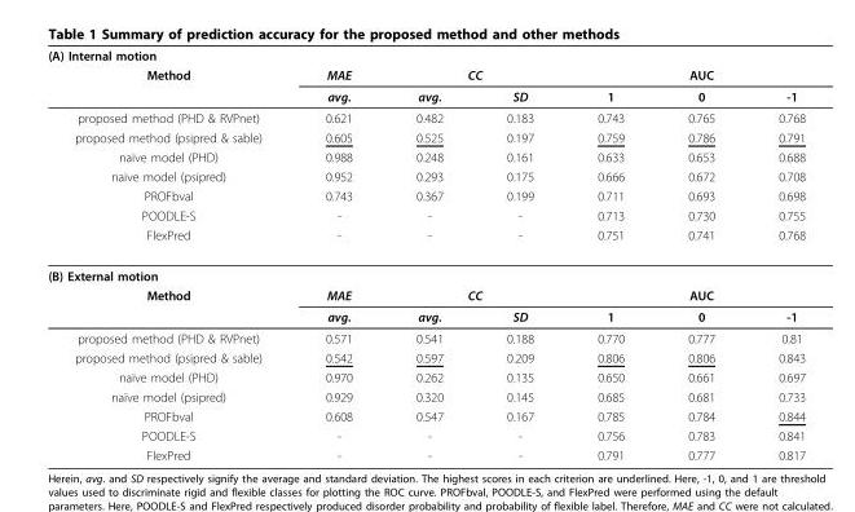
<table><thead><tr><td colspan="7">(A) Internal motion</td></tr><tr><td rowspan="2">Method</td><td rowspan="2">MAE avg.</td><td colspan="2">CC</td><td colspan="3">AUC</td></tr><tr><td>avg.</td><td>SD</td><td>1</td><td>0</td><td>-1</td></tr></thead><tbody><tr><td>proposed method (PHD &amp; RVPnet)</td><td>0.621</td><td>0.482</td><td>0.183</td><td>0.743</td><td>0.765</td><td>0.768</td></tr><tr><td>proposed method (psipred &amp; sable)</td><td>0.605</td><td>0.525</td><td>0.197</td><td>0.759</td><td>0.786</td><td>0.791</td></tr><tr><td>naïve model (PHD)</td><td>0.988</td><td>0.248</td><td>0.161</td><td>0.633</td><td>0.653</td><td>0.688</td></tr><tr><td>naïve model (psipred)</td><td>0.952</td><td>0.293</td><td>0.175</td><td>0.666</td><td>0.672</td><td>0.708</td></tr><tr><td>PROFbval</td><td>0.743</td><td>0.367</td><td>0.199</td><td>0.711</td><td>0.693</td><td>0.698</td></tr><tr><td>POODLE-S</td><td>-</td><td>-</td><td>-</td><td>0.713</td><td>0.730</td><td>0.755</td></tr><tr><td>FlexPred</td><td>-</td><td>-</td><td>-</td><td>0.751</td><td>0.741</td><td>0.768</td></tr><tr><td colspan="7">(B) External motion</td></tr><tr><td rowspan="2">Method</td><td>MAE</td><td colspan="2">CC</td><td colspan="3">AUC</td></tr><tr><td>avg.</td><td>avg.</td><td>SD</td><td>1</td><td>0</td><td>-1</td></tr><tr><td>proposed method (PHD &amp; RVPnet)</td><td>0.571</td><td>0.541</td><td>0.188</td><td>0.770</td><td>0.777</td><td>0.81</td></tr><tr><td>proposed method (psipred &amp; sable)</td><td>0.542</td><td>0.597</td><td>0.209</td><td>0.806</td><td>0.806</td><td>0.843</td></tr><tr><td>naïve model (PHD)</td><td>0.970</td><td>0.262</td><td>0.135</td><td>0.650</td><td>0.661</td><td>0.697</td></tr><tr><td>naïve model (psipred)</td><td>0.929</td><td>0.320</td><td>0.145</td><td>0.685</td><td>0.681</td><td>0.733</td></tr><tr><td>PROFbval</td><td>0.608</td><td>0.547</td><td>0.167</td><td>0.785</td><td>0.784</td><td>0.844</td></tr><tr><td>POODLE-S</td><td>-</td><td>-</td><td>-</td><td>0.756</td><td>0.783</td><td>0.841</td></tr><tr><td>FlexPred</td><td>-</td><td>-</td><td>-</td><td>0.791</td><td>0.777</td><td>0.817</td></tr></tbody></table>